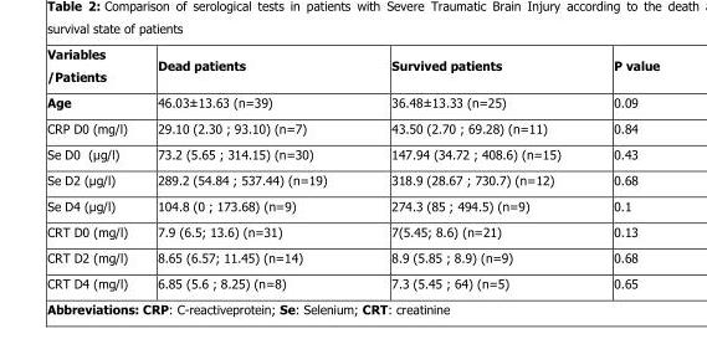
<table><thead><tr><td>Variables /Patients</td><td>Dead patients</td><td>Survived patients</td><td>P value</td></tr></thead><tbody><tr><td>Age</td><td>46.03±13.63 (n=39)</td><td>36.48±13.33 (n=25)</td><td>0.09</td></tr><tr><td>CRP D0 (mg/l)</td><td>29.10 (2.30 ; 93.10) (n=7)</td><td>43.50 (2.70 ; 69.28) (n=11)</td><td>0.84</td></tr><tr><td>Se D0 (µg/l)</td><td>73.2 (5.65 ; 314.15) (n=30)</td><td>147.94 (34.72 ; 408.6) (n=15)</td><td>0.43</td></tr><tr><td>Se D2 (µg/l)</td><td>289.2 (54.84 ; 537.44) (n=19)</td><td>318.9 (28.67 ; 730.7) (n=12)</td><td>0.68</td></tr><tr><td>Se D4 (µg/l)</td><td>104.8 (0 ; 173.68) (n=9)</td><td>274.3 (85 ; 494.5) (n=9)</td><td>0.1</td></tr><tr><td>CRT D0 (mg/l)</td><td>7.9 (6.5; 13.6) (n=31)</td><td>7(5.45; 8.6) (n=21)</td><td>0.13</td></tr><tr><td>CRT D2 (mg/l)</td><td>8.65 (6.57; 11.45) (n=14)</td><td>8.9 (5.85 ; 8.9) (n=9)</td><td>0.68</td></tr><tr><td>CRT D4 (mg/l)</td><td>6.85 (5.6 ; 8.25) (n=8)</td><td>7.3 (5.45 ; 64) (n=5)</td><td>0.65</td></tr></tbody></table>